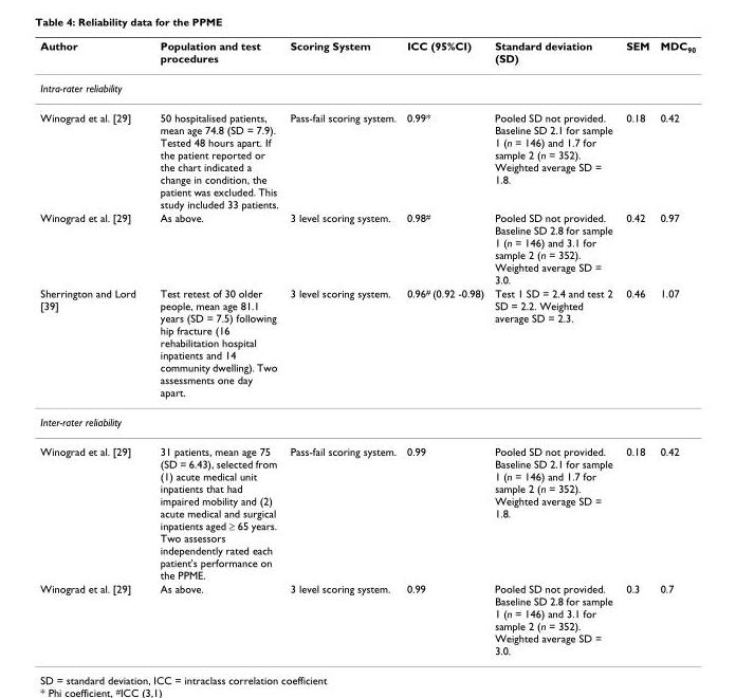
<table><thead><tr><td>Author</td><td>Population and test procedures</td><td>Scoring System</td><td>ICC (95%CI)</td><td>Standard deviation (SD)</td><td>SEM</td><td>MDC<sub>90</sub></td></tr></thead><tbody><tr><td colspan="7">Intra-rater reliability</td></tr><tr><td>Winograd et al. [29]</td><td>50 hospitalised patients, mean age 74.8 (SD = 7.9). Tested 48 hours apart. If the patient reported or the chart indicated a change in condition, the patient was excluded. This study included 33 patients.</td><td>Pass-fail scoring system.</td><td>0.99*</td><td>Pooled SD not provided. Baseline SD 2.1 for sample 1 (n = 146) and 1.7 for sample 2 (n = 352). Weighted average SD = 1.8.</td><td>0.18</td><td>0.42</td></tr><tr><td>Winograd et al. [29]</td><td>As above.</td><td>3 level scoring system.</td><td>0.98<sup>#</sup></td><td>Pooled SD not provided. Baseline SD 2.8 for sample 1 (n = 146) and 3.1 for sample 2 (n = 352). Weighted average SD = 3.0.</td><td>0.42</td><td>0.97</td></tr><tr><td>Sherrington and Lord [39]</td><td>Test retest of 30 older people, mean age 81.1 years (SD = 7.5) following hip fracture (16 rehabilitation hospital inpatients and 14 community dwelling). Two assessments one day apart.</td><td>3 level scoring system.</td><td>0.96<sup>#</sup> (0.92 -0.98)</td><td>Test 1 SD = 2.4 and test 2 SD = 2.2. Weighted average SD = 2.3.</td><td>0.46</td><td>1.07</td></tr><tr><td colspan="7">Inter-rater reliability</td></tr><tr><td>Winograd et al. [29]</td><td>31 patients, mean age 75 (SD = 6.43), selected from (1) acute medical unit inpatients that had impaired mobility and (2) acute medical and surgical inpatients aged ≥ 65 years. Two assessors independently rated each patient&#x27;s performance on the PPME.</td><td>Pass-fail scoring system.</td><td>0.99</td><td>Pooled SD not provided. Baseline SD 2.1 for sample 1 (n = 146) and 1.7 for sample 2 (n = 352). Weighted average SD = 1.8.</td><td>0.18</td><td>0.42</td></tr><tr><td>Winograd et al. [29]</td><td>As above.</td><td>3 level scoring system.</td><td>0.99</td><td>Pooled SD not provided. Baseline SD 2.8 for sample 1 (n = 146) and 3.1 for sample 2 (n = 352). Weighted average SD = 3.0.</td><td>0.3</td><td>0.7</td></tr></tbody></table>